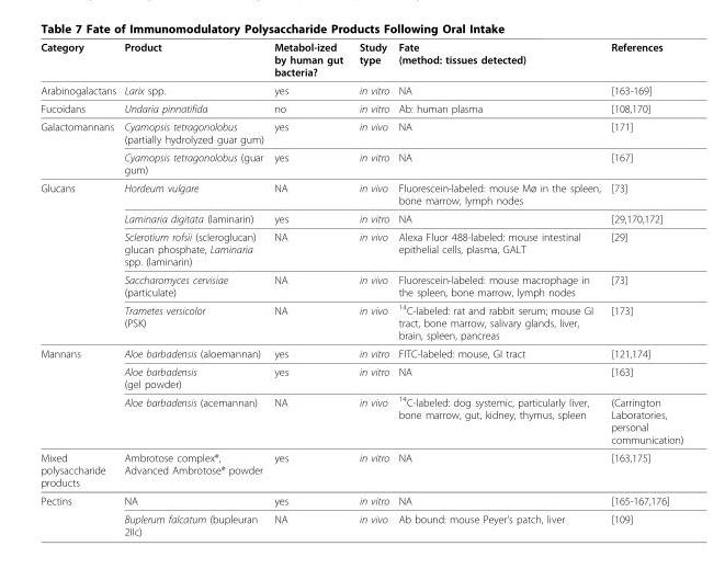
<table><thead><tr><td>Category</td><td>Product</td><td>Metabol-ized by human gut bacteria?</td><td>Study type</td><td>Fate (method: tissues detected)</td><td>References</td></tr></thead><tbody><tr><td>Arabinogalactans</td><td>Larix spp.</td><td>yes</td><td>in vitro</td><td>NA</td><td>[163-169]</td></tr><tr><td>Fucoidans</td><td>Undaria pinnatifida</td><td>no</td><td>in vitro</td><td>Ab: human plasma</td><td>[108,170]</td></tr><tr><td rowspan="2">Galactomannans</td><td>Cyamopsis tetragonolobus (partially hydrolyzed guar gum)</td><td>yes</td><td>in vivo</td><td>NA</td><td>[171]</td></tr><tr><td>Cyamopsis tetragonolobus (guar gum)</td><td>yes</td><td>in vitro</td><td>NA</td><td>[167]</td></tr><tr><td rowspan="5">Glucans</td><td>Hordeum vulgare</td><td>NA</td><td>in vivo</td><td>Fluorescein-labeled: mouse Mø in the spleen, bone marrow, lymph nodes</td><td>[73]</td></tr><tr><td>Laminaria digitata (laminarin)</td><td>yes</td><td>in vitro</td><td>NA</td><td>[29,170,172]</td></tr><tr><td>Sclerotium rofsii (scleroglucan) glucan phosphate, Laminaria spp. (laminarin)</td><td>NA</td><td>in vivo</td><td>Alexa Fluor 488-labeled: mouse intestinal epithelial cells, plasma, GALT</td><td>[29]</td></tr><tr><td>Saccharomyces cervisiae (particulate)</td><td>NA</td><td>in vivo</td><td>Fluorescein-labeled: mouse macrophage in the spleen, bone marrow, lymph nodes</td><td>[73]</td></tr><tr><td>Trametes versicolor (PSK)</td><td>NA</td><td>in vivo</td><td><sup>14</sup>C-labeled: rat and rabbit serum; mouse GI tract, bone marrow, salivary glands, liver, brain, spleen, pancreas</td><td>[173]</td></tr><tr><td rowspan="3">Mannans</td><td>Aloe barbadensis (aloemannan)</td><td>yes</td><td>in vitro</td><td>FITC-labeled: mouse, GI tract</td><td>[121,174]</td></tr><tr><td>Aloe barbadensis (gel powder)</td><td>yes</td><td>in vitro</td><td>NA</td><td>[163]</td></tr><tr><td>Aloe barbadensis (acemannan)</td><td>NA</td><td>in vivo</td><td><sup>14</sup>C-labeled: dog systemic, particularly liver, bone marrow, gut, kidney, thymus, spleen</td><td>(Carrington Laboratories, personal communication)</td></tr><tr><td>Mixed polysaccharide products</td><td>Ambrotose complex<sup>®</sup>, Advanced Ambrotose<sup>®</sup> powder</td><td>yes</td><td>in vitro</td><td>NA</td><td>[163,175]</td></tr><tr><td rowspan="2">Pectins</td><td>NA</td><td>yes</td><td>in vitro</td><td>NA</td><td>[165-167,176]</td></tr><tr><td>Buplerum falcatum (bupleuran 2IIc)</td><td>NA</td><td>in vivo</td><td>Ab bound: mouse Peyer’s patch, liver</td><td>[109]</td></tr></tbody></table>